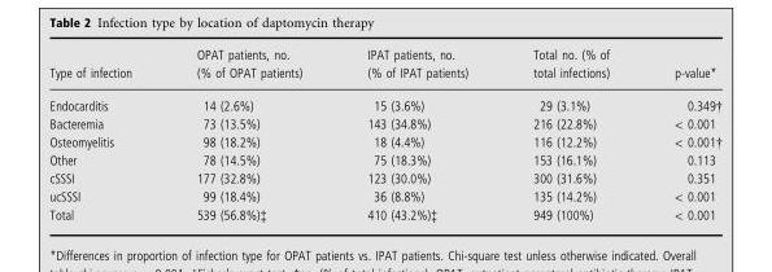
<table><thead><tr><td>Type of infection</td><td>OPAT patients, no. (% of OPAT patients)</td><td>IPAT patients, no. (% of IPAT patients)</td><td>Total no. (% of total infections)</td><td>p-value*</td></tr></thead><tbody><tr><td>Endocarditis</td><td>14 (2.6%)</td><td>15 (3.6%)</td><td>29 (3.1%)</td><td>0.349†</td></tr><tr><td>Bacteremia</td><td>73 (13.5%)</td><td>143 (34.8%)</td><td>216 (22.8%)</td><td>&lt; 0.001</td></tr><tr><td>Osteomyelitis</td><td>98 (18.2%)</td><td>18 (4.4%)</td><td>116 (12.2%)</td><td>&lt; 0.001†</td></tr><tr><td>Other</td><td>78 (14.5%)</td><td>75 (18.3%)</td><td>153 (16.1%)</td><td>0.113</td></tr><tr><td>cSSSI</td><td>177 (32.8%)</td><td>123 (30.0%)</td><td>300 (31.6%)</td><td>0.351</td></tr><tr><td>ucSSSI</td><td>99 (18.4%)</td><td>36 (8.8%)</td><td>135 (14.2%)</td><td>&lt; 0.001</td></tr><tr><td>Total</td><td>539 (56.8%)‡</td><td>410 (43.2%)‡</td><td>949 (100%)</td><td>&lt; 0.001</td></tr></tbody></table>